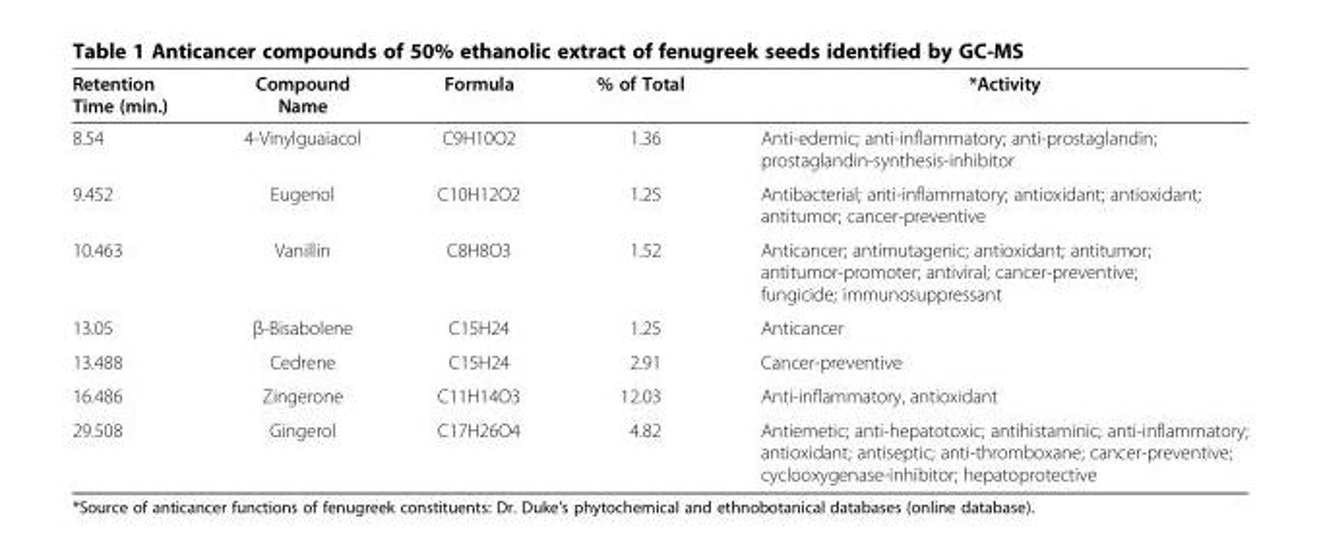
<table><thead><tr><td>Retention Time (min.)</td><td>Compound Name</td><td>Formula</td><td>% of Total</td><td>*Activity</td></tr></thead><tbody><tr><td>8.54</td><td>4-Vinylguaiacol</td><td>C9H10O2</td><td>1.36</td><td>Anti-edemic; anti-inflammatory; anti-prostaglandin; prostaglandin-synthesis-inhibitor</td></tr><tr><td>9.452</td><td>Eugenol</td><td>C10H12O2</td><td>1.25</td><td>Antibacterial; anti-inflammatory; antioxidant; antioxidant; antitumor; cancer-preventive</td></tr><tr><td>10.463</td><td>Vanillin</td><td>C8H8O3</td><td>1.52</td><td>Anticancer; antimutagenic; antioxidant; antitumor; antitumor-promoter; antiviral; cancer-preventive; fungicide; immunosuppressant</td></tr><tr><td>13.05</td><td>β-Bisabolene</td><td>C15H24</td><td>1.25</td><td>Anticancer</td></tr><tr><td>13.488</td><td>Cedrene</td><td>C15H24</td><td>2.91</td><td>Cancer-preventive</td></tr><tr><td>16.486</td><td>Zingerone</td><td>C11H14O3</td><td>12.03</td><td>Anti-inflammatory, antioxidant</td></tr><tr><td>29.508</td><td>Gingerol</td><td>C17H26O4</td><td>4.82</td><td>Antiemetic; anti-hepatotoxic; antihistaminic; anti-inflammatory; antioxidant; antiseptic; anti-thromboxane; cancer-preventive; cyclooxygenase-inhibitor; hepatoprotective</td></tr></tbody></table>